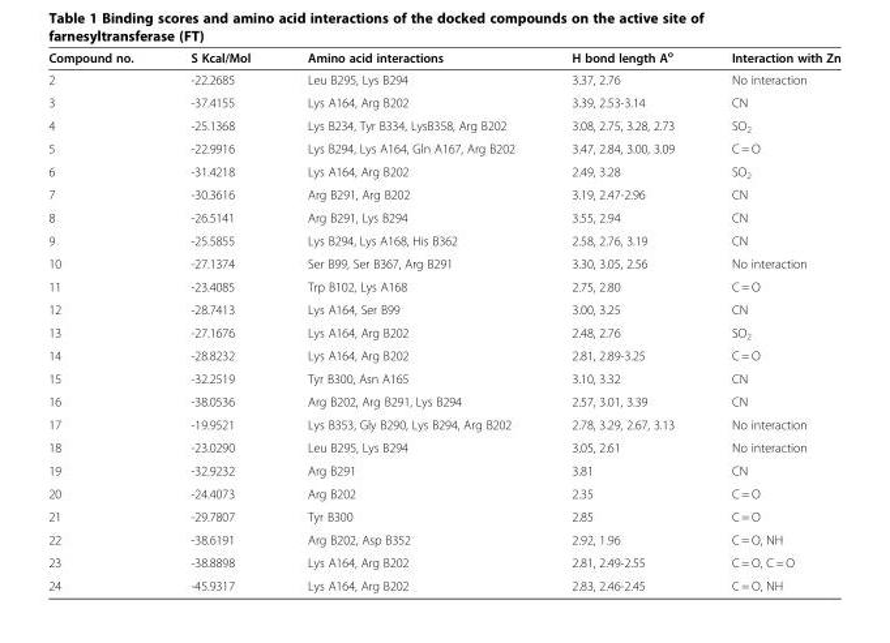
<table><thead><tr><td>Compound no.</td><td>S Kcal/Mol</td><td>Amino acid interactions</td><td>H bond length A<sup>o</sup></td><td>Interaction with Zn</td></tr></thead><tbody><tr><td>2</td><td>-22.2685</td><td>Leu B295, Lys B294</td><td>3.37, 2.76</td><td>No interaction</td></tr><tr><td>3</td><td>-37.4155</td><td>Lys A164, Arg B202</td><td>3.39, 2.53-3.14</td><td>CN</td></tr><tr><td>4</td><td>-25.1368</td><td>Lys B234, Tyr B334, LysB358, Arg B202</td><td>3.08, 2.75, 3.28, 2.73</td><td>SO<sub>2</sub></td></tr><tr><td>5</td><td>-22.9916</td><td>Lys B294, Lys A164, Gln A167, Arg B202</td><td>3.47, 2.84, 3.00, 3.09</td><td>C = O</td></tr><tr><td>6</td><td>-31.4218</td><td>Lys A164, Arg B202</td><td>2.49, 3.28</td><td>SO<sub>2</sub></td></tr><tr><td>7</td><td>-30.3616</td><td>Arg B291, Arg B202</td><td>3.19, 2.47-2.96</td><td>CN</td></tr><tr><td>8</td><td>-26.5141</td><td>Arg B291, Lys B294</td><td>3.55, 2.94</td><td>CN</td></tr><tr><td>9</td><td>-25.5855</td><td>Lys B294, Lys A168, His B362</td><td>2.58, 2.76, 3.19</td><td>CN</td></tr><tr><td>10</td><td>-27.1374</td><td>Ser B99, Ser B367, Arg B291</td><td>3.30, 3.05, 2.56</td><td>No interaction</td></tr><tr><td>11</td><td>-23.4085</td><td>Trp B102, Lys A168</td><td>2.75, 2.80</td><td>C = O</td></tr><tr><td>12</td><td>-28.7413</td><td>Lys A164, Ser B99</td><td>3.00, 3.25</td><td>CN</td></tr><tr><td>13</td><td>-27.1676</td><td>Lys A164, Arg B202</td><td>2.48, 2.76</td><td>SO<sub>2</sub></td></tr><tr><td>14</td><td>-28.8232</td><td>Lys A164, Arg B202</td><td>2.81, 2.89-3.25</td><td>C = O</td></tr><tr><td>15</td><td>-32.2519</td><td>Tyr B300, Asn A165</td><td>3.10, 3.32</td><td>CN</td></tr><tr><td>16</td><td>-38.0536</td><td>Arg B202, Arg B291, Lys B294</td><td>2.57, 3.01, 3.39</td><td>CN</td></tr><tr><td>17</td><td>-19.9521</td><td>Lys B353, Gly B290, Lys B294, Arg B202</td><td>2.78, 3.29, 2.67, 3.13</td><td>No interaction</td></tr><tr><td>18</td><td>-23.0290</td><td>Leu B295, Lys B294</td><td>3.05, 2.61</td><td>No interaction</td></tr><tr><td>19</td><td>-32.9232</td><td>Arg B291</td><td>3.81</td><td>CN</td></tr><tr><td>20</td><td>-24.4073</td><td>Arg B202</td><td>2.35</td><td>C = O</td></tr><tr><td>21</td><td>-29.7807</td><td>Tyr B300</td><td>2.85</td><td>C = O</td></tr><tr><td>22</td><td>-38.6191</td><td>Arg B202, Asp B352</td><td>2.92, 1.96</td><td>C = O, NH</td></tr><tr><td>23</td><td>-38.8898</td><td>Lys A164, Arg B202</td><td>2.81, 2.49-2.55</td><td>C = O, C = O</td></tr><tr><td>24</td><td>-45.9317</td><td>Lys A164, Arg B202</td><td>2.83, 2.46-2.45</td><td>C = O, NH</td></tr></tbody></table>